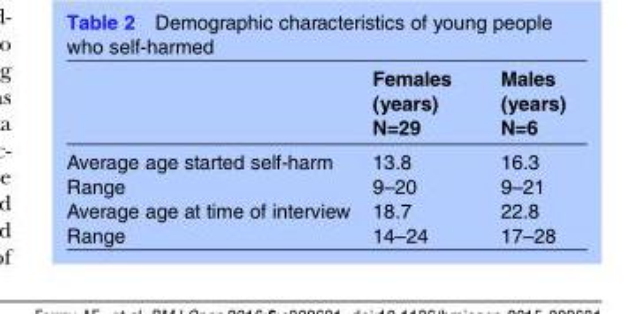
<table><thead><tr><td rowspan="2"></td><td rowspan="2">Females (years) N=29</td><td rowspan="2">Males (years) N=6</td></tr><tr></tr></thead><tbody><tr><td>Average age started self-harm</td><td>13.8</td><td>16.3</td></tr><tr><td>Range</td><td>9–20</td><td>9–21</td></tr><tr><td>Average age at time of interview</td><td>18.7</td><td>22.8</td></tr><tr><td>Range</td><td>14–24</td><td>17–28</td></tr></tbody></table>